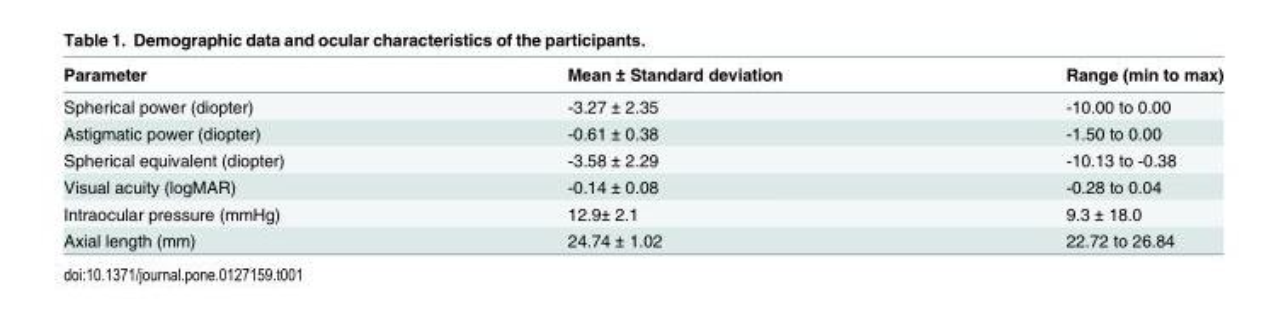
<table><thead><tr><td>Parameter</td><td>Mean ± Standard deviation</td><td>Range (min to max)</td></tr></thead><tbody><tr><td>Spherical power (diopter)</td><td>-3.27 ± 2.35</td><td>-10.00 to 0.00</td></tr><tr><td>Astigmatic power (diopter)</td><td>-0.61 ± 0.38</td><td>-1.50 to 0.00</td></tr><tr><td>Spherical equivalent (diopter)</td><td>-3.58 ± 2.29</td><td>-10.13 to -0.38</td></tr><tr><td>Visual acuity (logMAR)</td><td>-0.14 ± 0.08</td><td>-0.28 to 0.04</td></tr><tr><td>Intraocular pressure (mmHg)</td><td>12.9± 2.1</td><td>9.3 ± 18.0</td></tr><tr><td>Axial length (mm)</td><td>24.74 ± 1.02</td><td>22.72 to 26.84</td></tr></tbody></table>